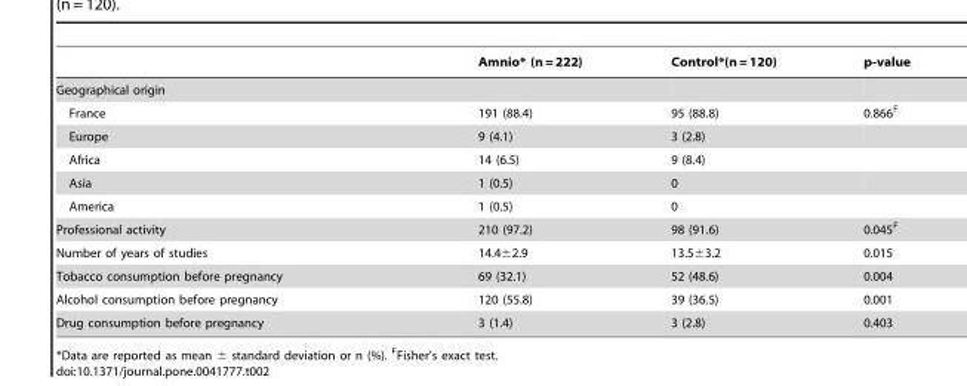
<table><thead><tr><td></td><td>Amnio* (n = 222)</td><td>Control*(n = 120)</td><td>p-value</td></tr></thead><tbody><tr><td colspan="4">Geographical origin</td></tr><tr><td>France</td><td>191 (88.4)</td><td>95 (88.8)</td><td>0.866<sup>F</sup></td></tr><tr><td>Europe</td><td>9 (4.1)</td><td>3 (2.8)</td><td></td></tr><tr><td>Africa</td><td>14 (6.5)</td><td>9 (8.4)</td><td></td></tr><tr><td>Asia</td><td>1 (0.5)</td><td>0</td><td></td></tr><tr><td>America</td><td>1 (0.5)</td><td>0</td><td></td></tr><tr><td>Professional activity</td><td>210 (97.2)</td><td>98 (91.6)</td><td>0.045<sup>F</sup></td></tr><tr><td>Number of years of studies</td><td>14.4±2.9</td><td>13.5±3.2</td><td>0.015</td></tr><tr><td>Tobacco consumption before pregnancy</td><td>69 (32.1)</td><td>52 (48.6)</td><td>0.004</td></tr><tr><td>Alcohol consumption before pregnancy</td><td>120 (55.8)</td><td>39 (36.5)</td><td>0.001</td></tr><tr><td>Drug consumption before pregnancy</td><td>3 (1.4)</td><td>3 (2.8)</td><td>0.403</td></tr></tbody></table>